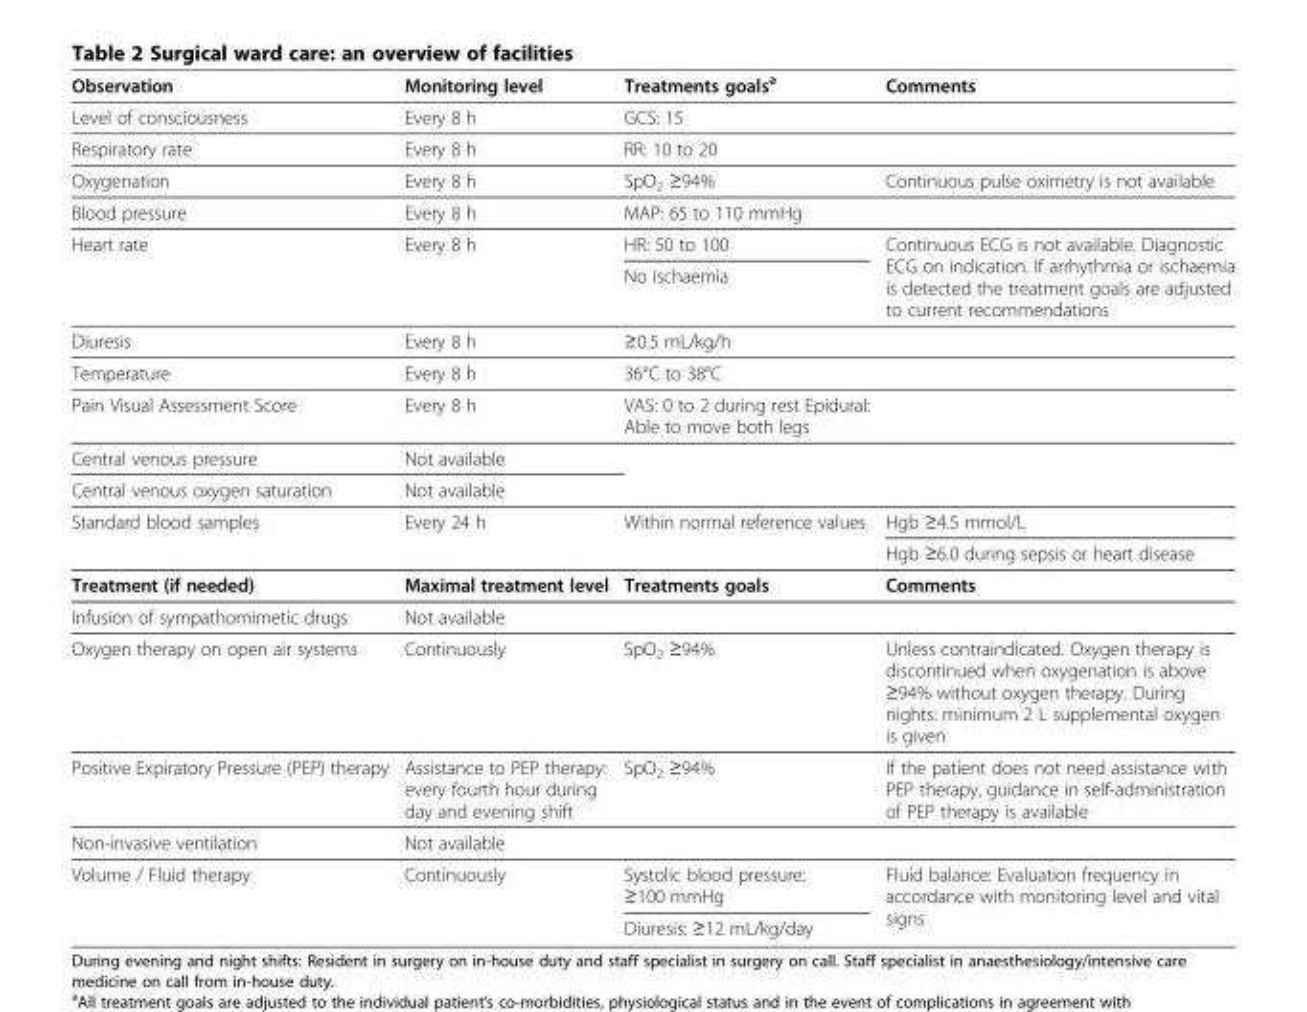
<table><thead><tr><td>Observation</td><td>Monitoring level</td><td>Treatments goals<sup>a</sup></td><td>Comments</td></tr></thead><tbody><tr><td>Level of consciousness</td><td>Every 8 h</td><td>GCS: 15</td><td></td></tr><tr><td>Respiratory rate</td><td>Every 8 h</td><td>RR: 10 to 20</td><td></td></tr><tr><td>Oxygenation</td><td>Every 8 h</td><td>SpO<sub>2</sub> ≥94%</td><td>Continuous pulse oximetry is not available</td></tr><tr><td>Blood pressure</td><td>Every 8 h</td><td>MAP: 65 to 110 mmHg</td><td></td></tr><tr><td rowspan="2">Heart rate</td><td rowspan="2">Every 8 h</td><td>HR: 50 to 100</td><td rowspan="2">Continuous ECG is not available. Diagnostic ECG on indication. If arrhythmia or ischaemia is detected the treatment goals are adjusted to current recommendations</td></tr><tr><td>No ischaemia</td></tr><tr><td>Diuresis</td><td>Every 8 h</td><td>≥0.5 mL/kg/h</td><td></td></tr><tr><td>Temperature</td><td>Every 8 h</td><td>36°C to 38°C</td><td></td></tr><tr><td>Pain Visual Assessment Score</td><td>Every 8 h</td><td>VAS: 0 to 2 during rest Epidural: Able to move both legs</td><td></td></tr><tr><td>Central venous pressure</td><td>Not available</td><td rowspan="2"></td><td rowspan="2"></td></tr><tr><td>Central venous oxygen saturation</td><td>Not available</td></tr><tr><td rowspan="2">Standard blood samples</td><td rowspan="2">Every 24 h</td><td rowspan="2">Within normal reference values</td><td>Hgb ≥4.5 mmol/L</td></tr><tr><td>Hgb ≥6.0 during sepsis or heart disease</td></tr><tr><td>Treatment (if needed)</td><td>Maximal treatment level</td><td>Treatments goals</td><td>Comments</td></tr><tr><td>Infusion of sympathomimetic drugs</td><td>Not available</td><td></td><td></td></tr><tr><td>Oxygen therapy on open air systems</td><td>Continuously</td><td>SpO<sub>2</sub> ≥94%</td><td>Unless contraindicated. Oxygen therapy is discontinued when oxygenation is above ≥94% without oxygen therapy. During nights: minimum 2 L supplemental oxygen is given</td></tr><tr><td>Positive Expiratory Pressure (PEP) therapy</td><td>Assistance to PEP therapy: every fourth hour during day and evening shift</td><td>SpO<sub>2</sub> ≥94%</td><td>If the patient does not need assistance with PEP therapy, guidance in self-administration of PEP therapy is available</td></tr><tr><td>Non-invasive ventilation</td><td>Not available</td><td></td><td></td></tr><tr><td rowspan="2">Volume / Fluid therapy</td><td rowspan="2">Continuously</td><td>Systolic blood pressure: ≥100 mmHg</td><td rowspan="2">Fluid balance: Evaluation frequency in accordance with monitoring level and vital signs</td></tr><tr><td>Diuresis: ≥12 mL/kg/day</td></tr></tbody></table>